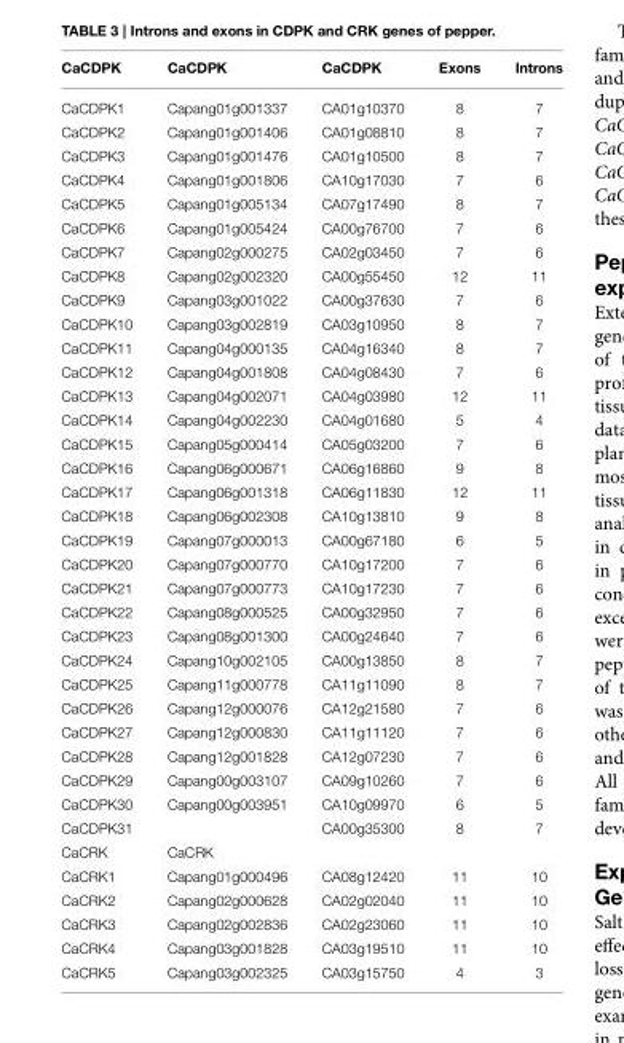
<table><thead><tr><td>CaCDPK</td><td>CaCDPK</td><td>CaCDPK</td><td>Exons</td><td>Introns</td></tr></thead><tbody><tr><td>CaCDPK1</td><td>Capang01g001337</td><td>CA01g10370</td><td>8</td><td>7</td></tr><tr><td>CaCDPK2</td><td>Capang01g001406</td><td>CA01g08810</td><td>8</td><td>7</td></tr><tr><td>CaCDPK3</td><td>Capang01g001476</td><td>CA01g10500</td><td>8</td><td>7</td></tr><tr><td>CaCDPK4</td><td>Capang01g001806</td><td>CA10g17030</td><td>7</td><td>6</td></tr><tr><td>CaCDPK5</td><td>Capang01g005134</td><td>CA07g17490</td><td>8</td><td>7</td></tr><tr><td>CaCDPK6</td><td>Capang01g005424</td><td>CA00g76700</td><td>7</td><td>6</td></tr><tr><td>CaCDPK7</td><td>Capang02g000275</td><td>CA02g03450</td><td>7</td><td>6</td></tr><tr><td>CaCDPK8</td><td>Capang02g002320</td><td>CA00g55450</td><td>12</td><td>11</td></tr><tr><td>CaCDPK9</td><td>Capang03g001022</td><td>CA00g37630</td><td>7</td><td>6</td></tr><tr><td>CaCDPK10</td><td>Capang03g002819</td><td>CA03g10950</td><td>8</td><td>7</td></tr><tr><td>CaCDPK11</td><td>Capang04g000135</td><td>CA04g16340</td><td>8</td><td>7</td></tr><tr><td>CaCDPK12</td><td>Capang04g001808</td><td>CA04g08430</td><td>7</td><td>6</td></tr><tr><td>CaCDPK13</td><td>Capang04g002071</td><td>CA04g03980</td><td>12</td><td>11</td></tr><tr><td>CaCDPK14</td><td>Capang04g002230</td><td>CA04g01680</td><td>5</td><td>4</td></tr><tr><td>CaCDPK15</td><td>Capang05g000414</td><td>CA05g03200</td><td>7</td><td>6</td></tr><tr><td>CaCDPK16</td><td>Capang06g000671</td><td>CA06g16860</td><td>9</td><td>8</td></tr><tr><td>CaCDPK17</td><td>Capang06g001318</td><td>CA06g11830</td><td>12</td><td>11</td></tr><tr><td>CaCDPK18</td><td>Capang06g002308</td><td>CA10g13810</td><td>9</td><td>8</td></tr><tr><td>CaCDPK19</td><td>Capang07g000013</td><td>CA00g67180</td><td>6</td><td>5</td></tr><tr><td>CaCDPK20</td><td>Capang07g000770</td><td>CA10g17200</td><td>7</td><td>6</td></tr><tr><td>CaCDPK21</td><td>Capang07g000773</td><td>CA10g17230</td><td>7</td><td>6</td></tr><tr><td>CaCDPK22</td><td>Capang08g000525</td><td>CA00g32950</td><td>7</td><td>6</td></tr><tr><td>CaCDPK23</td><td>Capang08g001300</td><td>CA00g24640</td><td>7</td><td>6</td></tr><tr><td>CaCDPK24</td><td>Capang10g002105</td><td>CA00g13850</td><td>8</td><td>7</td></tr><tr><td>CaCDPK25</td><td>Capang11g000778</td><td>CA11g11090</td><td>8</td><td>7</td></tr><tr><td>CaCDPK26</td><td>Capang12g000076</td><td>CA12g21580</td><td>7</td><td>6</td></tr><tr><td>CaCDPK27</td><td>Capang12g000830</td><td>CA11g11120</td><td>7</td><td>6</td></tr><tr><td>CaCDPK28</td><td>Capang12g001828</td><td>CA12g07230</td><td>7</td><td>6</td></tr><tr><td>CaCDPK29</td><td>Capang00g003107</td><td>CA09g10260</td><td>7</td><td>6</td></tr><tr><td>CaCDPK30</td><td>Capang00g003951</td><td>CA10g09970</td><td>6</td><td>5</td></tr><tr><td>CaCDPK31</td><td></td><td>CA00g35300</td><td>8</td><td>7</td></tr><tr><td>CaCRK</td><td>CaCRK</td><td></td><td></td><td></td></tr><tr><td>CaCRK1</td><td>Capang01g000496</td><td>CA08g12420</td><td>11</td><td>10</td></tr><tr><td>CaCRK2</td><td>Capang02g000628</td><td>CA02g02040</td><td>11</td><td>10</td></tr><tr><td>CaCRK3</td><td>Capang02g002836</td><td>CA02g23060</td><td>11</td><td>10</td></tr><tr><td>CaCRK4</td><td>Capang03g001828</td><td>CA03g19510</td><td>11</td><td>10</td></tr><tr><td>CaCRK5</td><td>Capang03g002325</td><td>CA03g15750</td><td>4</td><td>3</td></tr></tbody></table>